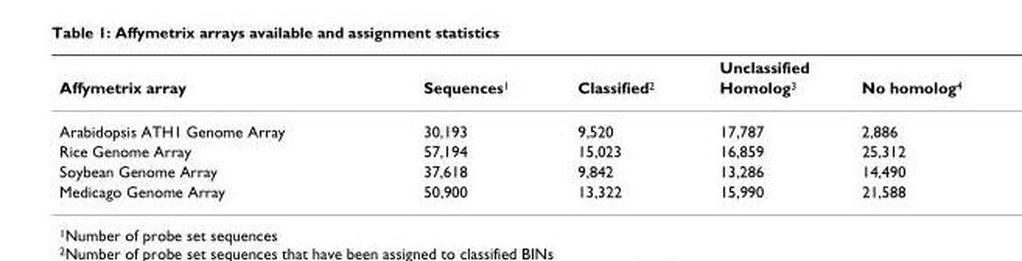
<table><thead><tr><td rowspan="2">Affymetrix array</td><td rowspan="2">Sequences<sup>1</sup></td><td rowspan="2">Classified<sup>2</sup></td><td colspan="2">Unclassified</td></tr><tr><td>Homolog<sup>3</sup></td><td>No homolog<sup>4</sup></td></tr></thead><tbody><tr><td>Arabidopsis ATH1 Genome Array</td><td>30,193</td><td>9,520</td><td>17,787</td><td>2,886</td></tr><tr><td>Rice Genome Array</td><td>57,194</td><td>15,023</td><td>16,859</td><td>25,312</td></tr><tr><td>Soybean Genome Array</td><td>37,618</td><td>9,842</td><td>13,286</td><td>14,490</td></tr><tr><td>Medicago Genome Array</td><td>50,900</td><td>13,322</td><td>15,990</td><td>21,588</td></tr></tbody></table>